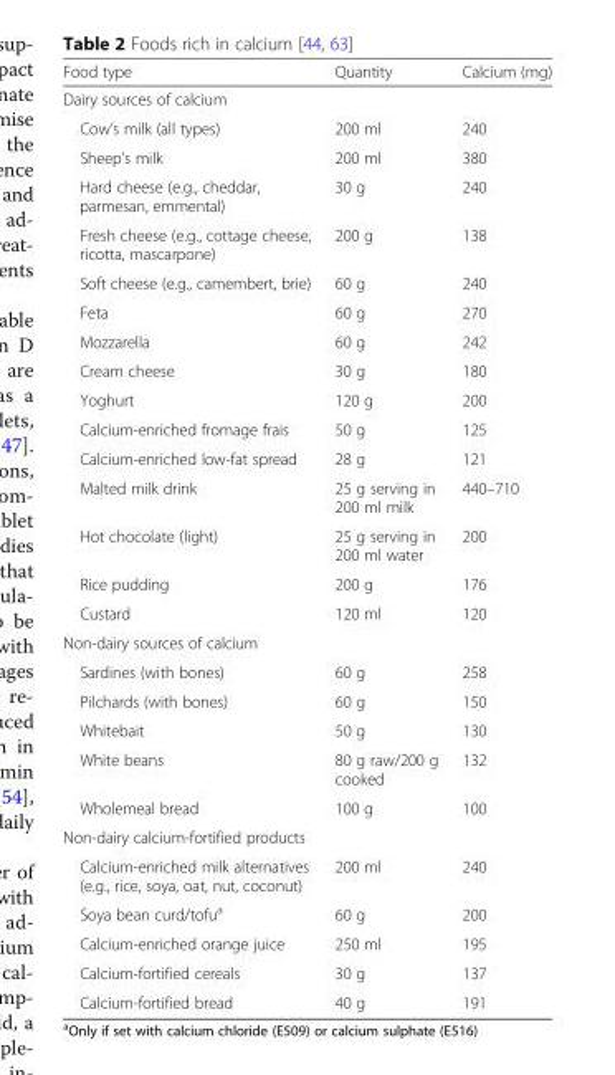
<table><thead><tr><td>Food type</td><td>Quantity</td><td>Calcium (mg)</td></tr></thead><tbody><tr><td colspan="3">Dairy sources of calcium</td></tr><tr><td>Cow’s milk (all types)</td><td>200 ml</td><td>240</td></tr><tr><td>Sheep’s milk</td><td>200 ml</td><td>380</td></tr><tr><td>Hard cheese (e.g., cheddar, parmesan, emmental)</td><td>30 g</td><td>240</td></tr><tr><td>Fresh cheese (e.g., cottage cheese, ricotta, mascarpone)</td><td>200 g</td><td>138</td></tr><tr><td>Soft cheese (e.g., camembert, brie)</td><td>60 g</td><td>240</td></tr><tr><td>Feta</td><td>60 g</td><td>270</td></tr><tr><td>Mozzarella</td><td>60 g</td><td>242</td></tr><tr><td>Cream cheese</td><td>30 g</td><td>180</td></tr><tr><td>Yoghurt</td><td>120 g</td><td>200</td></tr><tr><td>Calcium-enriched fromage frais</td><td>50 g</td><td>125</td></tr><tr><td>Calcium-enriched low-fat spread</td><td>28 g</td><td>121</td></tr><tr><td>Malted milk drink</td><td>25 g serving in 200 ml milk</td><td>440–710</td></tr><tr><td>Hot chocolate (light)</td><td>25 g serving in 200 ml water</td><td>200</td></tr><tr><td>Rice pudding</td><td>200 g</td><td>176</td></tr><tr><td>Custard</td><td>120 ml</td><td>120</td></tr><tr><td colspan="3">Non-dairy sources of calcium</td></tr><tr><td>Sardines (with bones)</td><td>60 g</td><td>258</td></tr><tr><td>Pilchards (with bones)</td><td>60 g</td><td>150</td></tr><tr><td>Whitebait</td><td>50 g</td><td>130</td></tr><tr><td>White beans</td><td>80 g raw/200 g cooked</td><td>132</td></tr><tr><td>Wholemeal bread</td><td>100 g</td><td>100</td></tr><tr><td colspan="3">Non-dairy calcium-fortified products</td></tr><tr><td>Calcium-enriched milk alternatives (e.g., rice, soya, oat, nut, coconut)</td><td>200 ml</td><td>240</td></tr><tr><td>Soya bean curd/tofu<sup>a</sup></td><td>60 g</td><td>200</td></tr><tr><td>Calcium-enriched orange juice</td><td>250 ml</td><td>195</td></tr><tr><td>Calcium-fortified cereals</td><td>30 g</td><td>137</td></tr><tr><td>Calcium-fortified bread</td><td>40 g</td><td>191</td></tr></tbody></table>